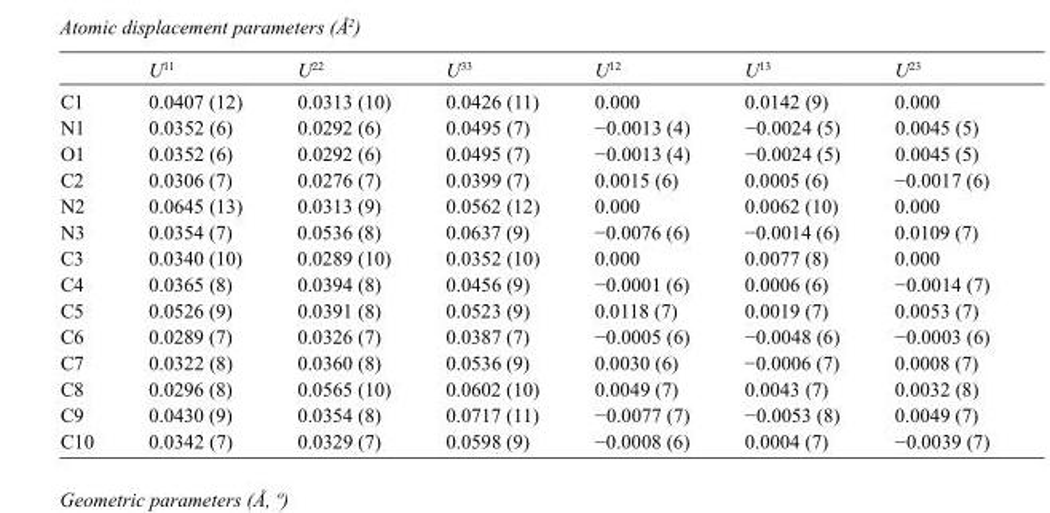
<table><thead><tr><td></td><td>U<sup>11</sup></td><td>U<sup>22</sup></td><td>U<sup>33</sup></td><td>U<sup>12</sup></td><td>U<sup>13</sup></td><td>U<sup>23</sup></td></tr></thead><tbody><tr><td>C1</td><td>0.0407 (12)</td><td>0.0313 (10)</td><td>0.0426 (11)</td><td>0.000</td><td>0.0142 (9)</td><td>0.000</td></tr><tr><td>N1</td><td>0.0352 (6)</td><td>0.0292 (6)</td><td>0.0495 (7)</td><td>−0.0013 (4)</td><td>−0.0024 (5)</td><td>0.0045 (5)</td></tr><tr><td>O1</td><td>0.0352 (6)</td><td>0.0292 (6)</td><td>0.0495 (7)</td><td>−0.0013 (4)</td><td>−0.0024 (5)</td><td>0.0045 (5)</td></tr><tr><td>C2</td><td>0.0306 (7)</td><td>0.0276 (7)</td><td>0.0399 (7)</td><td>0.0015 (6)</td><td>0.0005 (6)</td><td>−0.0017 (6)</td></tr><tr><td>N2</td><td>0.0645 (13)</td><td>0.0313 (9)</td><td>0.0562 (12)</td><td>0.000</td><td>0.0062 (10)</td><td>0.000</td></tr><tr><td>N3</td><td>0.0354 (7)</td><td>0.0536 (8)</td><td>0.0637 (9)</td><td>−0.0076 (6)</td><td>−0.0014 (6)</td><td>0.0109 (7)</td></tr><tr><td>C3</td><td>0.0340 (10)</td><td>0.0289 (10)</td><td>0.0352 (10)</td><td>0.000</td><td>0.0077 (8)</td><td>0.000</td></tr><tr><td>C4</td><td>0.0365 (8)</td><td>0.0394 (8)</td><td>0.0456 (9)</td><td>−0.0001 (6)</td><td>0.0006 (6)</td><td>−0.0014 (7)</td></tr><tr><td>C5</td><td>0.0526 (9)</td><td>0.0391 (8)</td><td>0.0523 (9)</td><td>0.0118 (7)</td><td>0.0019 (7)</td><td>0.0053 (7)</td></tr><tr><td>C6</td><td>0.0289 (7)</td><td>0.0326 (7)</td><td>0.0387 (7)</td><td>−0.0005 (6)</td><td>−0.0048 (6)</td><td>−0.0003 (6)</td></tr><tr><td>C7</td><td>0.0322 (8)</td><td>0.0360 (8)</td><td>0.0536 (9)</td><td>0.0030 (6)</td><td>−0.0006 (7)</td><td>0.0008 (7)</td></tr><tr><td>C8</td><td>0.0296 (8)</td><td>0.0565 (10)</td><td>0.0602 (10)</td><td>0.0049 (7)</td><td>0.0043 (7)</td><td>0.0032 (8)</td></tr><tr><td>C9</td><td>0.0430 (9)</td><td>0.0354 (8)</td><td>0.0717 (11)</td><td>−0.0077 (7)</td><td>−0.0053 (8)</td><td>0.0049 (7)</td></tr><tr><td>C10</td><td>0.0342 (7)</td><td>0.0329 (7)</td><td>0.0598 (9)</td><td>−0.0008 (6)</td><td>0.0004 (7)</td><td>−0.0039 (7)</td></tr></tbody></table>